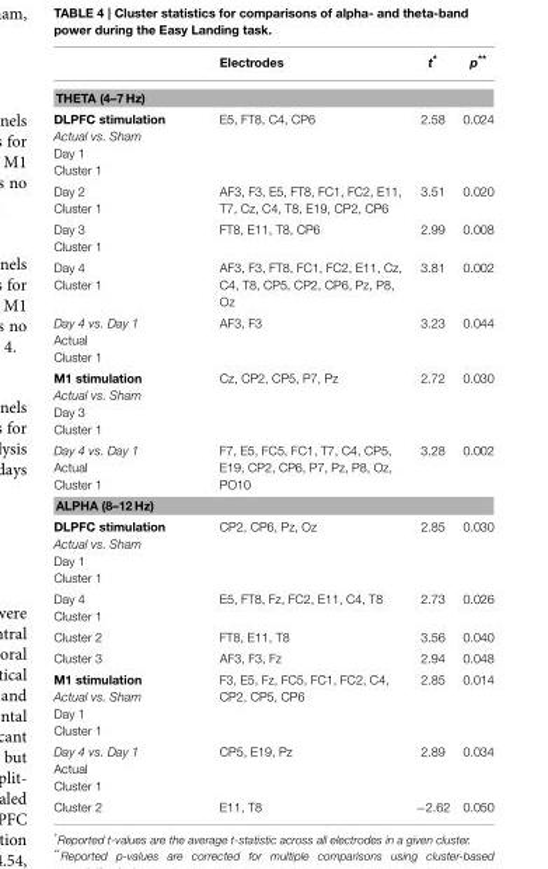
<table><thead><tr><td></td><td>Electrodes</td><td>t*</td><td>p**</td></tr></thead><tbody><tr><td colspan="4">THETA (4–7 Hz)</td></tr><tr><td>DLPFC stimulation Actual vs. Sham Day 1 Cluster 1</td><td>E5, FT8, C4, CP6</td><td>2.58</td><td>0.024</td></tr><tr><td>Day 2 Cluster 1</td><td>AF3, F3, E5, FT8, FC1, FC2, E11, T7, Cz, C4, T8, E19, CP2, CP6</td><td>3.51</td><td>0.020</td></tr><tr><td>Day 3 Cluster 1</td><td>FT8, E11, T8, CP6</td><td>2.99</td><td>0.008</td></tr><tr><td>Day 4 Cluster 1</td><td>AF3, F3, FT8, FC1, FC2, E11, Cz, C4, T8, CP5, CP2, CP6, Pz, P8, Oz</td><td>3.81</td><td>0.002</td></tr><tr><td>Day 4 vs. Day 1 Actual Cluster 1</td><td>AF3, F3</td><td>3.23</td><td>0.044</td></tr><tr><td>M1 stimulation Actual vs. Sham Day 3 Cluster 1</td><td>Cz, CP2, CP5, P7, Pz</td><td>2.72</td><td>0.030</td></tr><tr><td>Day 4 vs. Day 1 Actual Cluster 1</td><td>F7, E5, FC5, FC1, T7, C4, CP5, E19, CP2, CP6, P7, Pz, P8, Oz, PO10</td><td>3.28</td><td>0.002</td></tr><tr><td colspan="4">ALPHA (8–12 Hz)</td></tr><tr><td>DLPFC stimulation Actual vs. Sham Day 1 Cluster 1</td><td>CP2, CP6, Pz, Oz</td><td>2.85</td><td>0.030</td></tr><tr><td>Day 4 Cluster 1</td><td>E5, FT8, Fz, FC2, E11, C4, T8</td><td>2.73</td><td>0.026</td></tr><tr><td>Cluster 2</td><td>FT8, E11, T8</td><td>3.56</td><td>0.040</td></tr><tr><td>Cluster 3</td><td>AF3, F3, Fz</td><td>2.94</td><td>0.048</td></tr><tr><td>M1 stimulation Actual vs. Sham Day 1 Cluster 1</td><td>F3, E5, Fz, FC5, FC1, FC2, C4, CP2, CP5, CP6</td><td>2.85</td><td>0.014</td></tr><tr><td>Day 4 vs. Day 1 Actual Cluster 1</td><td>CP5, E19, Pz</td><td>2.89</td><td>0.034</td></tr><tr><td>Cluster 2</td><td>E11, T8</td><td>−2.62</td><td>0.050</td></tr></tbody></table>